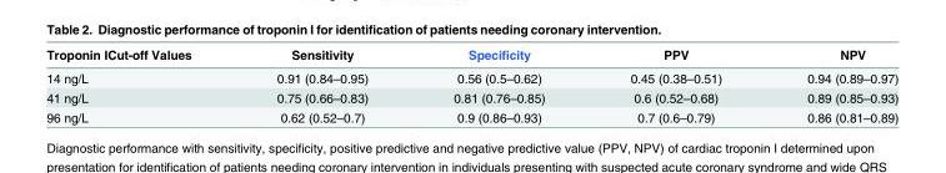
<table><thead><tr><td>Troponin ICut-off Values</td><td>Sensitivity</td><td>Specificity</td><td>PPV</td><td>NPV</td></tr></thead><tbody><tr><td>14 ng/L</td><td>0.91 (0.84–0.95)</td><td>0.56 (0.5–0.62)</td><td>0.45 (0.38–0.51)</td><td>0.94 (0.89–0.97)</td></tr><tr><td>41 ng/L</td><td>0.75 (0.66–0.83)</td><td>0.81 (0.76–0.85)</td><td>0.6 (0.52–0.68)</td><td>0.89 (0.85–0.93)</td></tr><tr><td>96 ng/L</td><td>0.62 (0.52–0.7)</td><td>0.9 (0.86–0.93)</td><td>0.7 (0.6–0.79)</td><td>0.86 (0.81–0.89)</td></tr></tbody></table>